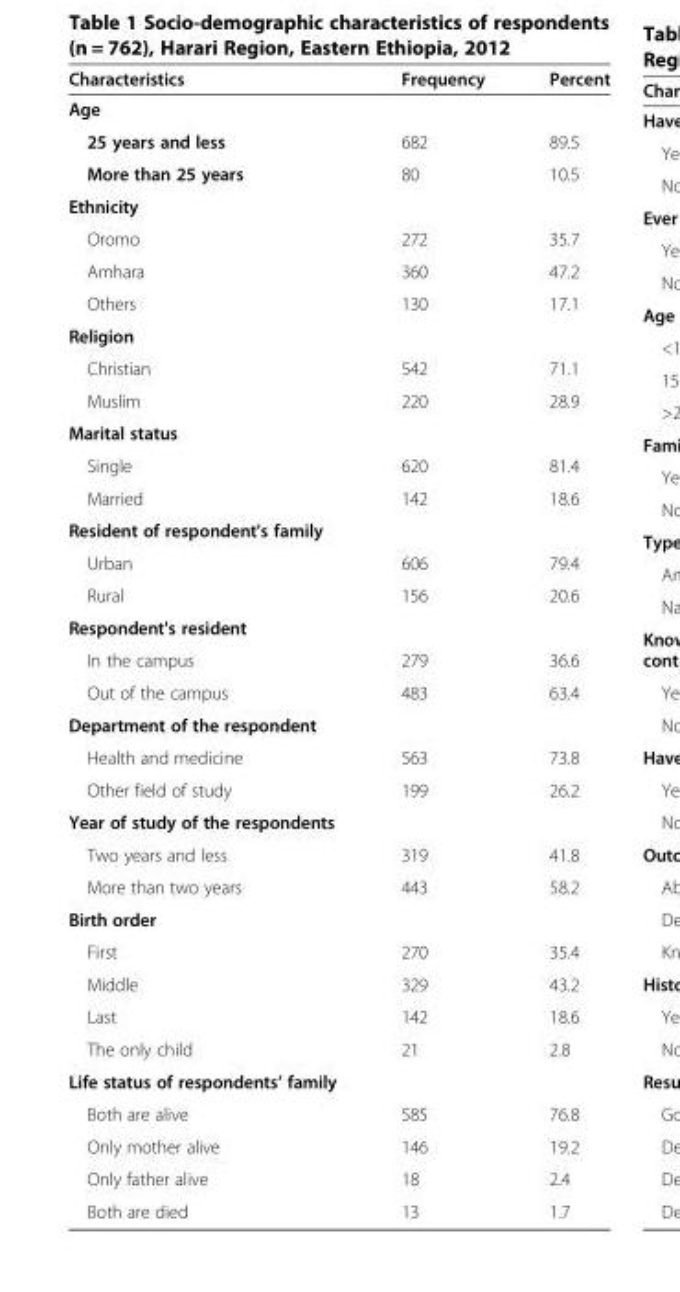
<table><thead><tr><td>Characteristics</td><td>Frequency</td><td>Percent</td></tr></thead><tbody><tr><td colspan="3">Age</td></tr><tr><td>25 years and less</td><td>682</td><td>89.5</td></tr><tr><td>More than 25 years</td><td>80</td><td>10.5</td></tr><tr><td colspan="3">Ethnicity</td></tr><tr><td>Oromo</td><td>272</td><td>35.7</td></tr><tr><td>Amhara</td><td>360</td><td>47.2</td></tr><tr><td>Others</td><td>130</td><td>17.1</td></tr><tr><td colspan="3">Religion</td></tr><tr><td>Christian</td><td>542</td><td>71.1</td></tr><tr><td>Muslim</td><td>220</td><td>28.9</td></tr><tr><td colspan="3">Marital status</td></tr><tr><td>Single</td><td>620</td><td>81.4</td></tr><tr><td>Married</td><td>142</td><td>18.6</td></tr><tr><td colspan="3">Resident of respondent&#x27;s family</td></tr><tr><td>Urban</td><td>606</td><td>79.4</td></tr><tr><td>Rural</td><td>156</td><td>20.6</td></tr><tr><td colspan="3">Respondent&#x27;s resident</td></tr><tr><td>In the campus</td><td>279</td><td>36.6</td></tr><tr><td>Out of the campus</td><td>483</td><td>63.4</td></tr><tr><td colspan="3">Department of the respondent</td></tr><tr><td>Health and medicine</td><td>563</td><td>73.8</td></tr><tr><td>Other field of study</td><td>199</td><td>26.2</td></tr><tr><td colspan="3">Year of study of the respondents</td></tr><tr><td>Two years and less</td><td>319</td><td>41.8</td></tr><tr><td>More than two years</td><td>443</td><td>58.2</td></tr><tr><td colspan="3">Birth order</td></tr><tr><td>First</td><td>270</td><td>35.4</td></tr><tr><td>Middle</td><td>329</td><td>43.2</td></tr><tr><td>Last</td><td>142</td><td>18.6</td></tr><tr><td>The only child</td><td>21</td><td>2.8</td></tr><tr><td colspan="3">Life status of respondents’ family</td></tr><tr><td>Both are alive</td><td>585</td><td>76.8</td></tr><tr><td>Only mother alive</td><td>146</td><td>19.2</td></tr><tr><td>Only father alive</td><td>18</td><td>2.4</td></tr><tr><td>Both are died</td><td>13</td><td>1.7</td></tr></tbody></table>